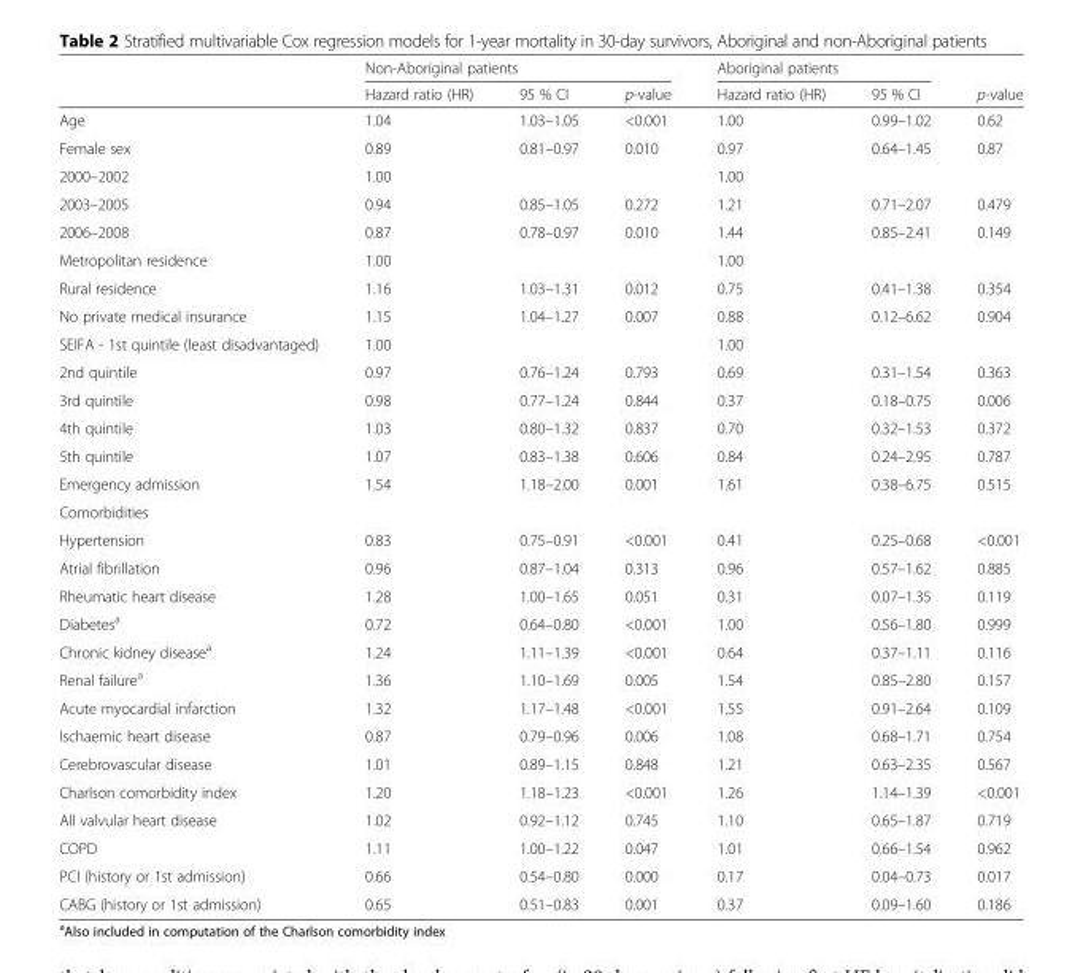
<table><thead><tr><td rowspan="2"></td><td colspan="3">Non-Aboriginal patients</td><td colspan="2">Aboriginal patients</td><td rowspan="2">p-value</td></tr><tr><td>Hazard ratio (HR)</td><td>95 % CI</td><td>p-value</td><td>Hazard ratio (HR)</td><td>95 % CI</td></tr></thead><tbody><tr><td>Age</td><td>1.04</td><td>1.03–1.05</td><td>&lt;0.001</td><td>1.00</td><td>0.99–1.02</td><td>0.62</td></tr><tr><td>Female sex</td><td>0.89</td><td>0.81–0.97</td><td>0.010</td><td>0.97</td><td>0.64–1.45</td><td>0.87</td></tr><tr><td>2000–2002</td><td>1.00</td><td></td><td></td><td>1.00</td><td></td><td></td></tr><tr><td>2003–2005</td><td>0.94</td><td>0.85–1.05</td><td>0.272</td><td>1.21</td><td>0.71–2.07</td><td>0.479</td></tr><tr><td>2006–2008</td><td>0.87</td><td>0.78–0.97</td><td>0.010</td><td>1.44</td><td>0.85–2.41</td><td>0.149</td></tr><tr><td>Metropolitan residence</td><td>1.00</td><td></td><td></td><td>1.00</td><td></td><td></td></tr><tr><td>Rural residence</td><td>1.16</td><td>1.03–1.31</td><td>0.012</td><td>0.75</td><td>0.41–1.38</td><td>0.354</td></tr><tr><td>No private medical insurance</td><td>1.15</td><td>1.04–1.27</td><td>0.007</td><td>0.88</td><td>0.12–6.62</td><td>0.904</td></tr><tr><td>SEIFA - 1st quintile (least disadvantaged)</td><td>1.00</td><td></td><td></td><td>1.00</td><td></td><td></td></tr><tr><td>2nd quintile</td><td>0.97</td><td>0.76–1.24</td><td>0.793</td><td>0.69</td><td>0.31–1.54</td><td>0.363</td></tr><tr><td>3rd quintile</td><td>0.98</td><td>0.77–1.24</td><td>0.844</td><td>0.37</td><td>0.18–0.75</td><td>0.006</td></tr><tr><td>4th quintile</td><td>1.03</td><td>0.80–1.32</td><td>0.837</td><td>0.70</td><td>0.32–1.53</td><td>0.372</td></tr><tr><td>5th quintile</td><td>1.07</td><td>0.83–1.38</td><td>0.606</td><td>0.84</td><td>0.24–2.95</td><td>0.787</td></tr><tr><td>Emergency admission</td><td>1.54</td><td>1.18–2.00</td><td>0.001</td><td>1.61</td><td>0.38–6.75</td><td>0.515</td></tr><tr><td colspan="7">Comorbidities</td></tr><tr><td>Hypertension</td><td>0.83</td><td>0.75–0.91</td><td>&lt;0.001</td><td>0.41</td><td>0.25–0.68</td><td>&lt;0.001</td></tr><tr><td>Atrial fibrillation</td><td>0.96</td><td>0.87–1.04</td><td>0.313</td><td>0.96</td><td>0.57–1.62</td><td>0.885</td></tr><tr><td>Rheumatic heart disease</td><td>1.28</td><td>1.00–1.65</td><td>0.051</td><td>0.31</td><td>0.07–1.35</td><td>0.119</td></tr><tr><td>Diabetes<sup>a</sup></td><td>0.72</td><td>0.64–0.80</td><td>&lt;0.001</td><td>1.00</td><td>0.56–1.80</td><td>0.999</td></tr><tr><td>Chronic kidney disease<sup>a</sup></td><td>1.24</td><td>1.11–1.39</td><td>&lt;0.001</td><td>0.64</td><td>0.37–1.11</td><td>0.116</td></tr><tr><td>Renal failure<sup>a</sup></td><td>1.36</td><td>1.10–1.69</td><td>0.005</td><td>1.54</td><td>0.85–2.80</td><td>0.157</td></tr><tr><td>Acute myocardial infarction</td><td>1.32</td><td>1.17–1.48</td><td>&lt;0.001</td><td>1.55</td><td>0.91–2.64</td><td>0.109</td></tr><tr><td>Ischaemic heart disease</td><td>0.87</td><td>0.79–0.96</td><td>0.006</td><td>1.08</td><td>0.68–1.71</td><td>0.754</td></tr><tr><td>Cerebrovascular disease</td><td>1.01</td><td>0.89–1.15</td><td>0.848</td><td>1.21</td><td>0.63–2.35</td><td>0.567</td></tr><tr><td>Charlson comorbidity index</td><td>1.20</td><td>1.18–1.23</td><td>&lt;0.001</td><td>1.26</td><td>1.14–1.39</td><td>&lt;0.001</td></tr><tr><td>All valvular heart disease</td><td>1.02</td><td>0.92–1.12</td><td>0.745</td><td>1.10</td><td>0.65–1.87</td><td>0.719</td></tr><tr><td>COPD</td><td>1.11</td><td>1.00–1.22</td><td>0.047</td><td>1.01</td><td>0.66–1.54</td><td>0.962</td></tr><tr><td>PCI (history or 1st admission)</td><td>0.66</td><td>0.54–0.80</td><td>0.000</td><td>0.17</td><td>0.04–0.73</td><td>0.017</td></tr><tr><td>CABG (history or 1st admission)</td><td>0.65</td><td>0.51–0.83</td><td>0.001</td><td>0.37</td><td>0.09–1.60</td><td>0.186</td></tr></tbody></table>